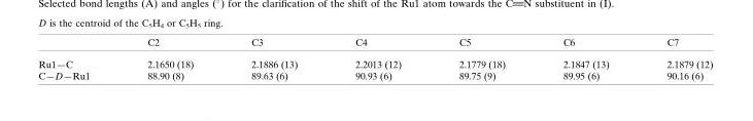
<table><thead><tr><td></td><td>C2</td><td>C3</td><td>C4</td><td>C5</td><td>C6</td><td>C7</td></tr></thead><tbody><tr><td>Ru1—C</td><td>2.1650 (18)</td><td>2.1886 (13)</td><td>2.2013 (12)</td><td>2.1779 (18)</td><td>2.1847 (13)</td><td>2.1879 (12)</td></tr><tr><td>C—D—Ru1</td><td>88.90 (8)</td><td>89.63 (6)</td><td>90.93 (6)</td><td>89.75 (9)</td><td>89.95 (6)</td><td>90.16 (6)</td></tr></tbody></table>